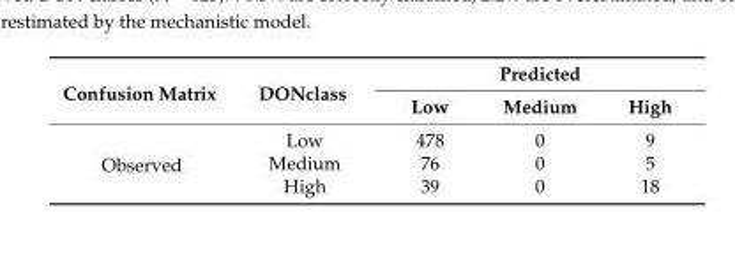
<table><thead><tr><td rowspan="2">Confusion Matrix</td><td rowspan="2">DONclass</td><td colspan="3">Predicted</td></tr><tr><td>Low</td><td>Medium</td><td>High</td></tr></thead><tbody><tr><td rowspan="3">Observed</td><td>Low</td><td>478</td><td>0</td><td>9</td></tr><tr><td>Medium</td><td>76</td><td>0</td><td>5</td></tr><tr><td>High</td><td>39</td><td>0</td><td>18</td></tr></tbody></table>